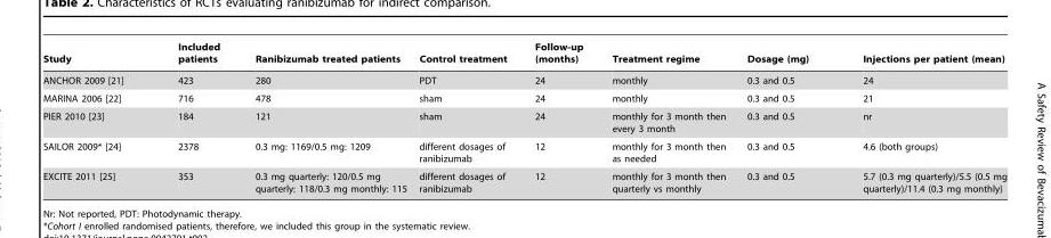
<table><thead><tr><td>Study</td><td>Included patients</td><td>Ranibizumab treated patients</td><td>Control treatment</td><td>Follow-up (months)</td><td>Treatment regime</td><td>Dosage (mg)</td><td>Injections per patient (mean)</td></tr></thead><tbody><tr><td>ANCHOR 2009 [21]</td><td>423</td><td>280</td><td>PDT</td><td>24</td><td>monthly</td><td>0.3 and 0.5</td><td>24</td></tr><tr><td>MARINA 2006 [22]</td><td>716</td><td>478</td><td>sham</td><td>24</td><td>monthly</td><td>0.3 and 0.5</td><td>21</td></tr><tr><td>PIER 2010 [23]</td><td>184</td><td>121</td><td>sham</td><td>24</td><td>monthly for 3 month then every 3 month</td><td>0.3 and 0.5</td><td>nr</td></tr><tr><td>SAILOR 2009* [24]</td><td>2378</td><td>0.3 mg: 1169/0.5 mg: 1209</td><td>different dosages of ranibizumab</td><td>12</td><td>monthly for 3 month then as needed</td><td>0.3 and 0.5</td><td>4.6 (both groups)</td></tr><tr><td>EXCITE 2011 [25]</td><td>353</td><td>0.3 mg quarterly: 120/0.5 mg quarterly: 118/0.3 mg monthly: 115</td><td>different dosages of ranibizumab</td><td>12</td><td>monthly for 3 month then quarterly vs monthly</td><td>0.3 and 0.5</td><td>5.7 (0.3 mg quarterly)/5.5 (0.5 mg quarterly)/11.4 (0.3 mg monthly)</td></tr></tbody></table>